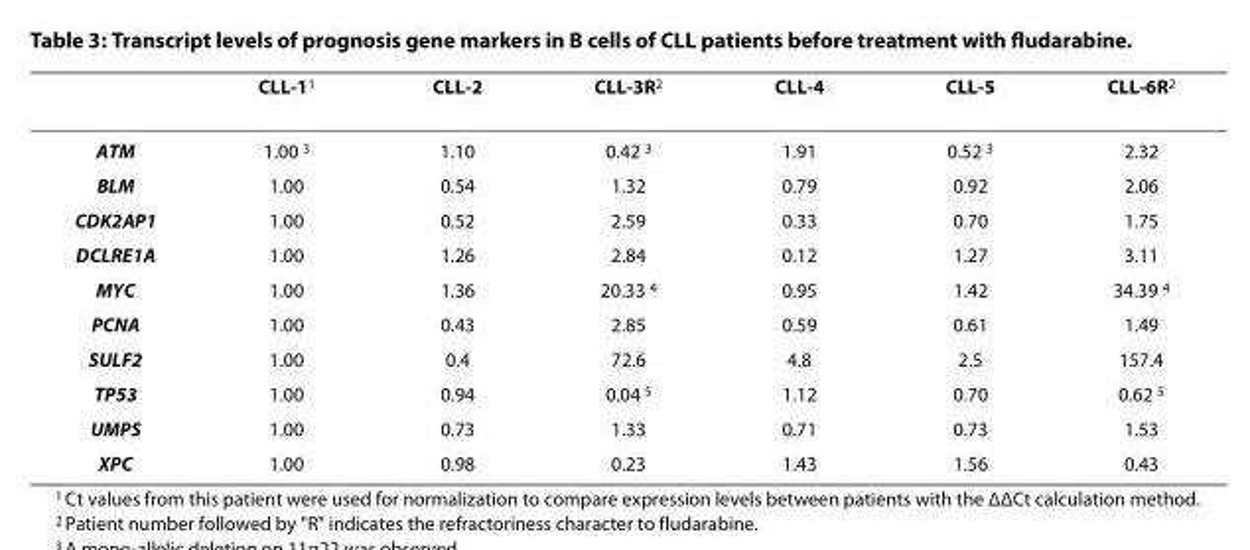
<table><thead><tr><td></td><td>CLL-1<sup>1</sup></td><td>CLL-2</td><td>CLL-3R<sup>2</sup></td><td>CLL-4</td><td>CLL-5</td><td>CLL-6R<sup>2</sup></td></tr></thead><tbody><tr><td>ATM</td><td>1.00 <sup>3</sup></td><td>1.10</td><td>0.42 <sup>3</sup></td><td>1.91</td><td>0.52 <sup>3</sup></td><td>2.32</td></tr><tr><td>BLM</td><td>1.00</td><td>0.54</td><td>1.32</td><td>0.79</td><td>0.92</td><td>2.06</td></tr><tr><td>CDK2AP1</td><td>1.00</td><td>0.52</td><td>2.59</td><td>0.33</td><td>0.70</td><td>1.75</td></tr><tr><td>DCLRE1A</td><td>1.00</td><td>1.26</td><td>2.84</td><td>0.12</td><td>1.27</td><td>3.11</td></tr><tr><td>MYC</td><td>1.00</td><td>1.36</td><td>20.33 <sup>4</sup></td><td>0.95</td><td>1.42</td><td>34.39 <sup>4</sup></td></tr><tr><td>PCNA</td><td>1.00</td><td>0.43</td><td>2.85</td><td>0.59</td><td>0.61</td><td>1.49</td></tr><tr><td>SULF2</td><td>1.00</td><td>0.4</td><td>72.6</td><td>4.8</td><td>2.5</td><td>157.4</td></tr><tr><td>TP53</td><td>1.00</td><td>0.94</td><td>0.04 <sup>5</sup></td><td>1.12</td><td>0.70</td><td>0.62 <sup>5</sup></td></tr><tr><td>UMPS</td><td>1.00</td><td>0.73</td><td>1.33</td><td>0.71</td><td>0.73</td><td>1.53</td></tr><tr><td>XPC</td><td>1.00</td><td>0.98</td><td>0.23</td><td>1.43</td><td>1.56</td><td>0.43</td></tr></tbody></table>